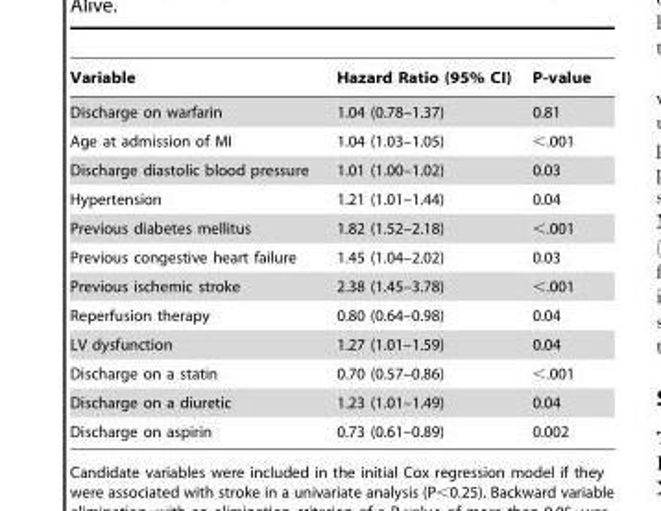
<table><thead><tr><td>Variable</td><td>Hazard Ratio (95% CI)</td><td>P-value</td></tr></thead><tbody><tr><td>Discharge on warfarin</td><td>1.04 (0.78–1.37)</td><td>0.81</td></tr><tr><td>Age at admission of MI</td><td>1.04 (1.03–1.05)</td><td>&lt;.001</td></tr><tr><td>Discharge diastolic blood pressure</td><td>1.01 (1.00–1.02)</td><td>0.03</td></tr><tr><td>Hypertension</td><td>1.21 (1.01–1.44)</td><td>0.04</td></tr><tr><td>Previous diabetes mellitus</td><td>1.82 (1.52–2.18)</td><td>&lt;.001</td></tr><tr><td>Previous congestive heart failure</td><td>1.45 (1.04–2.02)</td><td>0.03</td></tr><tr><td>Previous ischemic stroke</td><td>2.38 (1.45–3.78)</td><td>&lt;.001</td></tr><tr><td>Reperfusion therapy</td><td>0.80 (0.64–0.98)</td><td>0.04</td></tr><tr><td>LV dysfunction</td><td>1.27 (1.01–1.59)</td><td>0.04</td></tr><tr><td>Discharge on a statin</td><td>0.70 (0.57–0.86)</td><td>&lt;.001</td></tr><tr><td>Discharge on a diuretic</td><td>1.23 (1.01–1.49)</td><td>0.04</td></tr><tr><td>Discharge on aspirin</td><td>0.73 (0.61–0.89)</td><td>0.002</td></tr></tbody></table>